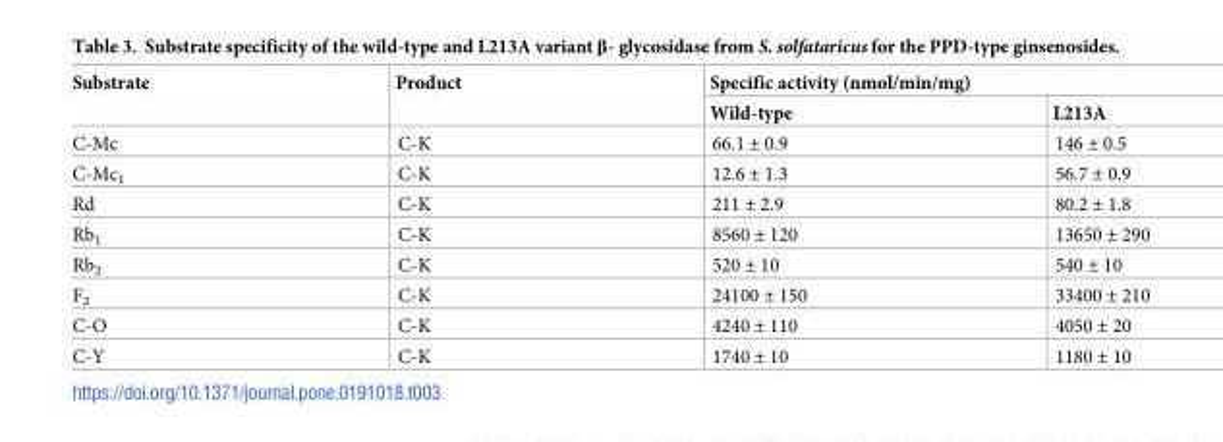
<table><thead><tr><td rowspan="2">Substrate</td><td rowspan="2">Product</td><td colspan="2">Specific activity (nmol/min/mg)</td></tr><tr><td>Wild-type</td><td>L213A</td></tr></thead><tbody><tr><td>C-Mc</td><td>C-K</td><td>66.1 ± 0.9</td><td>146 ± 0.5</td></tr><tr><td>C-Mc<sub>1</sub></td><td>C-K</td><td>12.6 ± 1.3</td><td>56.7 ± 0.9</td></tr><tr><td>Rd</td><td>C-K</td><td>211 ± 2.9</td><td>80.2 ± 1.8</td></tr><tr><td>Rb<sub>1</sub></td><td>C-K</td><td>8560 ± 120</td><td>13650 ± 290</td></tr><tr><td>Rb<sub>2</sub></td><td>C-K</td><td>520 ± 10</td><td>540 ± 10</td></tr><tr><td>F<sub>2</sub></td><td>C-K</td><td>24100 ± 150</td><td>33400 ± 210</td></tr><tr><td>C-O</td><td>C-K</td><td>4240 ± 110</td><td>4050 ± 20</td></tr><tr><td>C-Y</td><td>C-K</td><td>1740 ± 10</td><td>1180 ± 10</td></tr></tbody></table>